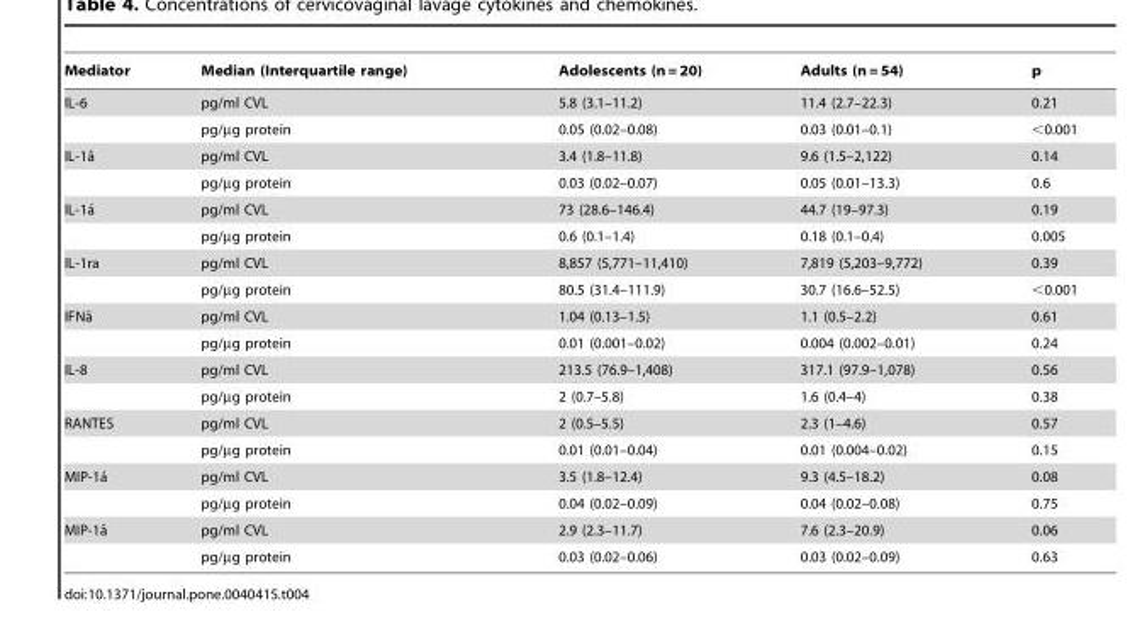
<table><thead><tr><td>Mediator</td><td>Median (Interquartile range)</td><td>Adolescents (n = 20)</td><td>Adults (n = 54)</td><td>p</td></tr></thead><tbody><tr><td rowspan="2">IL-6</td><td>pg/ml CVL</td><td>5.8 (3.1–11.2)</td><td>11.4 (2.7–22.3)</td><td>0.21</td></tr><tr><td>pg/µg protein</td><td>0.05 (0.02–0.08)</td><td>0.03 (0.01–0.1)</td><td>&lt;0.001</td></tr><tr><td rowspan="2">IL-1aˆ</td><td>pg/ml CVL</td><td>3.4 (1.8–11.8)</td><td>9.6 (1.5–2,122)</td><td>0.14</td></tr><tr><td>pg/µg protein</td><td>0.03 (0.02–0.07)</td><td>0.05 (0.01–13.3)</td><td>0.6</td></tr><tr><td rowspan="2">IL-1a´</td><td>pg/ml CVL</td><td>73 (28.6–146.4)</td><td>44.7 (19–97.3)</td><td>0.19</td></tr><tr><td>pg/µg protein</td><td>0.6 (0.1–1.4)</td><td>0.18 (0.1–0.4)</td><td>0.005</td></tr><tr><td rowspan="2">IL-1ra</td><td>pg/ml CVL</td><td>8,857 (5,771–11,410)</td><td>7,819 (5,203–9,772)</td><td>0.39</td></tr><tr><td>pg/µg protein</td><td>80.5 (31.4–111.9)</td><td>30.7 (16.6–52.5)</td><td>&lt;0.001</td></tr><tr><td rowspan="2">IFNa˜</td><td>pg/ml CVL</td><td>1.04 (0.13–1.5)</td><td>1.1 (0.5–2.2)</td><td>0.61</td></tr><tr><td>pg/µg protein</td><td>0.01 (0.001–0.02)</td><td>0.004 (0.002–0.01)</td><td>0.24</td></tr><tr><td rowspan="2">IL-8</td><td>pg/ml CVL</td><td>213.5 (76.9–1,408)</td><td>317.1 (97.9–1,078)</td><td>0.56</td></tr><tr><td>pg/µg protein</td><td>2 (0.7–5.8)</td><td>1.6 (0.4–4)</td><td>0.38</td></tr><tr><td rowspan="2">RANTES</td><td>pg/ml CVL</td><td>2 (0.5–5.5)</td><td>2.3 (1–4.6)</td><td>0.57</td></tr><tr><td>pg/µg protein</td><td>0.01 (0.01–0.04)</td><td>0.01 (0.004–0.02)</td><td>0.15</td></tr><tr><td rowspan="2">MIP-1a´</td><td>pg/ml CVL</td><td>3.5 (1.8–12.4)</td><td>9.3 (4.5–18.2)</td><td>0.08</td></tr><tr><td>pg/µg protein</td><td>0.04 (0.02–0.09)</td><td>0.04 (0.02–0.08)</td><td>0.75</td></tr><tr><td rowspan="2">MIP-1aˆ</td><td>pg/ml CVL</td><td>2.9 (2.3–11.7)</td><td>7.6 (2.3–20.9)</td><td>0.06</td></tr><tr><td>pg/µg protein</td><td>0.03 (0.02–0.06)</td><td>0.03 (0.02–0.09)</td><td>0.63</td></tr></tbody></table>